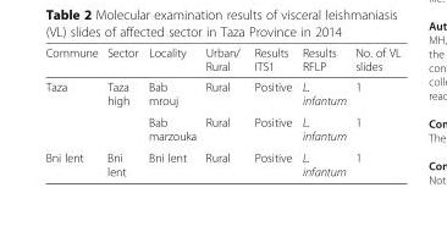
<table><thead><tr><td>Commune</td><td>Sector</td><td>Locality</td><td>Urban/ Rural</td><td>Results ITS1</td><td>Results RFLP</td><td>No. of VL slides</td></tr></thead><tbody><tr><td rowspan="2">Taza</td><td rowspan="2">Taza high</td><td>Bab mrouj</td><td>Rural</td><td>Positive</td><td>L. infantum</td><td>1</td></tr><tr><td>Bab marzouka</td><td>Rural</td><td>Positive</td><td>L. infantum</td><td>1</td></tr><tr><td>Bni lent</td><td>Bni lent</td><td>Bni lent</td><td>Rural</td><td>Positive</td><td>L. infantum</td><td>1</td></tr></tbody></table>